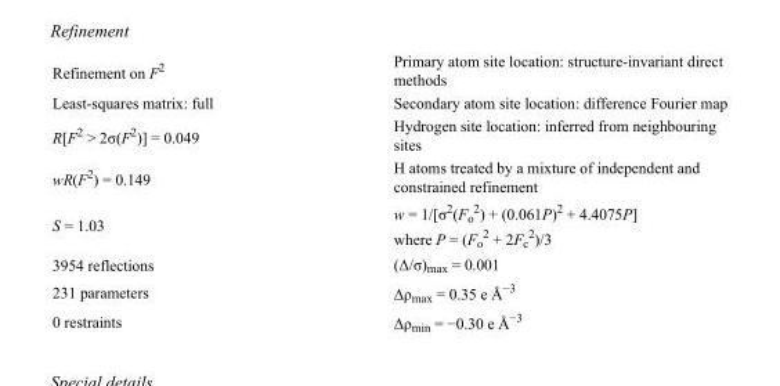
<table><tbody><tr><td>Refinement on F<sup>2</sup></td><td>Primary atom site location: structure-invariant direct methods</td></tr><tr><td>Least-squares matrix: full</td><td>Secondary atom site location: difference Fourier map</td></tr><tr><td>R[F<sup>2</sup> &gt; 2σ(F<sup>2</sup>)] = 0.049</td><td>Hydrogen site location: inferred from neighbouring sites</td></tr><tr><td>wR(F<sup>2</sup>) = 0.149</td><td>H atoms treated by a mixture of independent and constrained refinement</td></tr><tr><td>S = 1.03</td><td>w = 1/[σ<sup>2</sup>(F<sub>o</sub> <sup>2</sup>) + (0.061P)<sup>2</sup> + 4.4075P] where P = (F<sub>o</sub> <sup>2</sup> + 2F<sub>c</sub> <sup>2</sup>)/3</td></tr><tr><td>3954 reflections</td><td>(Δ/σ)<sub>max</sub> = 0.001</td></tr><tr><td>231 parameters</td><td>Δρ<sub>max</sub> = 0.35 e Å<sup>−3</sup></td></tr><tr><td>0 restraints</td><td>Δρ<sub>min</sub> = −0.30 e Å<sup>−3</sup></td></tr></tbody></table>